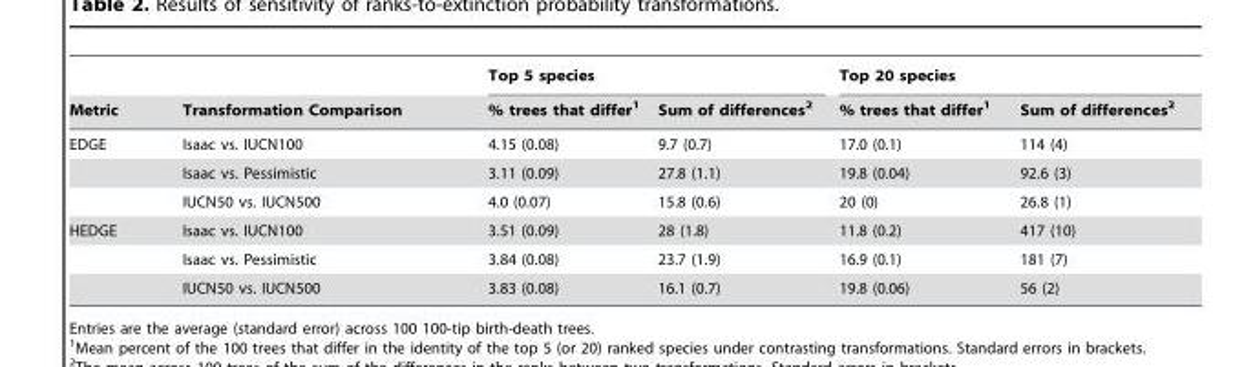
<table><thead><tr><td rowspan="2">Metric</td><td rowspan="2">Transformation Comparison</td><td colspan="2">Top 5 species</td><td colspan="2">Top 20 species</td></tr><tr><td>% trees that differ<sup>1</sup></td><td>Sum of differences<sup>2</sup></td><td>% trees that differ<sup>1</sup></td><td>Sum of differences<sup>2</sup></td></tr></thead><tbody><tr><td rowspan="3">EDGE</td><td>Isaac vs. IUCN100</td><td>4.15 (0.08)</td><td>9.7 (0.7)</td><td>17.0 (0.1)</td><td>114 (4)</td></tr><tr><td>Isaac vs. Pessimistic</td><td>3.11 (0.09)</td><td>27.8 (1.1)</td><td>19.8 (0.04)</td><td>92.6 (3)</td></tr><tr><td>IUCN50 vs. IUCN500</td><td>4.0 (0.07)</td><td>15.8 (0.6)</td><td>20 (0)</td><td>26.8 (1)</td></tr><tr><td rowspan="3">HEDGE</td><td>Isaac vs. IUCN100</td><td>3.51 (0.09)</td><td>28 (1.8)</td><td>11.8 (0.2)</td><td>417 (10)</td></tr><tr><td>Isaac vs. Pessimistic</td><td>3.84 (0.08)</td><td>23.7 (1.9)</td><td>16.9 (0.1)</td><td>181 (7)</td></tr><tr><td>IUCN50 vs. IUCN500</td><td>3.83 (0.08)</td><td>16.1 (0.7)</td><td>19.8 (0.06)</td><td>56 (2)</td></tr></tbody></table>